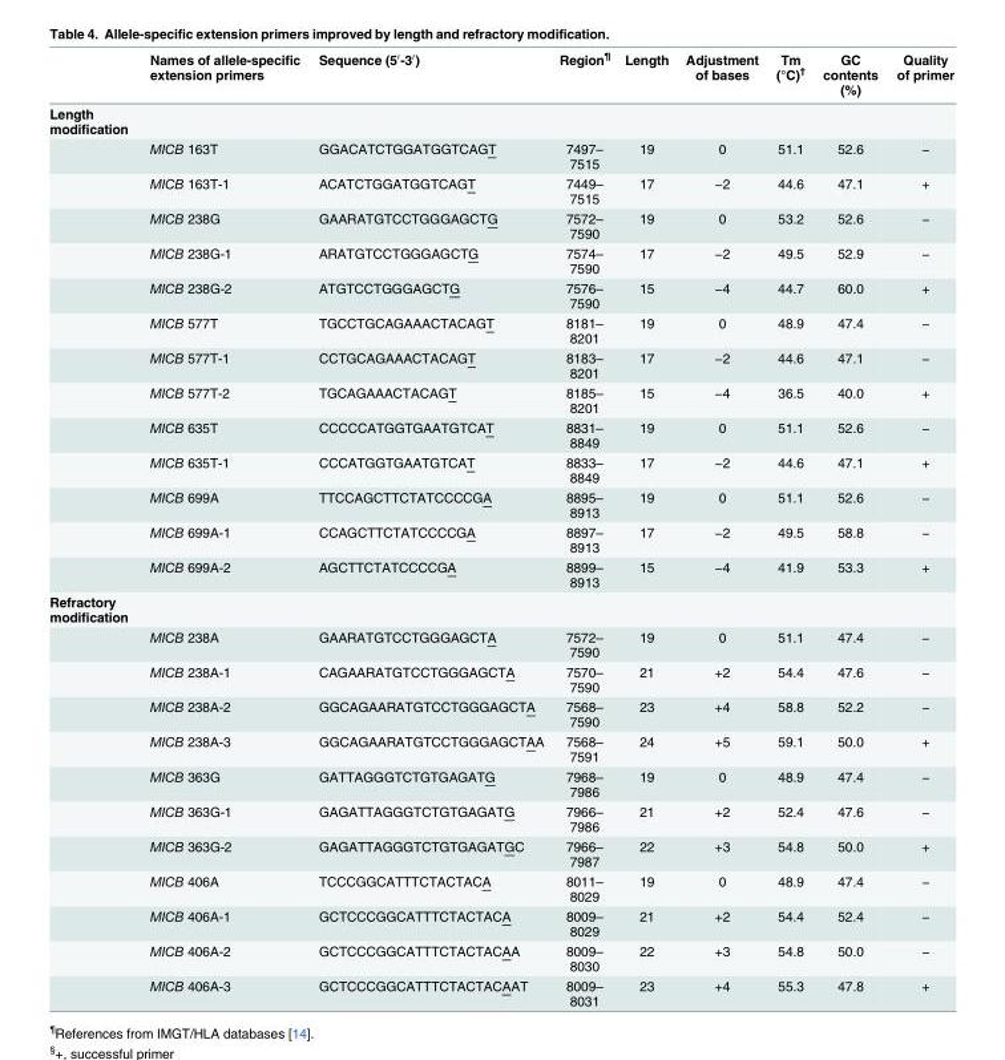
<table><thead><tr><td></td><td>Names of allele-specific extension primers</td><td>Sequence (5′-3′)</td><td>Region<sup>¶</sup></td><td>Length</td><td>Adjustment of bases</td><td>Tm (°C)<sup>†</sup></td><td>GC contents (%)</td><td>Quality of primer</td></tr></thead><tbody><tr><td colspan="9">Length modification</td></tr><tr><td></td><td>MICB 163T</td><td>GGACATCTGGATGGTCAGT</td><td>7497– 7515</td><td>19</td><td>0</td><td>51.1</td><td>52.6</td><td>−</td></tr><tr><td></td><td>MICB 163T-1</td><td>ACATCTGGATGGTCAGT</td><td>7449– 7515</td><td>17</td><td>−2</td><td>44.6</td><td>47.1</td><td>+</td></tr><tr><td></td><td>MICB 238G</td><td>GAARATGTCCTGGGAGCTG</td><td>7572– 7590</td><td>19</td><td>0</td><td>53.2</td><td>52.6</td><td>−</td></tr><tr><td></td><td>MICB 238G-1</td><td>ARATGTCCTGGGAGCTG</td><td>7574– 7590</td><td>17</td><td>−2</td><td>49.5</td><td>52.9</td><td>−</td></tr><tr><td></td><td>MICB 238G-2</td><td>ATGTCCTGGGAGCTG</td><td>7576– 7590</td><td>15</td><td>−4</td><td>44.7</td><td>60.0</td><td>+</td></tr><tr><td></td><td>MICB 577T</td><td>TGCCTGCAGAAACTACAGT</td><td>8181– 8201</td><td>19</td><td>0</td><td>48.9</td><td>47.4</td><td>−</td></tr><tr><td></td><td>MICB 577T-1</td><td>CCTGCAGAAACTACAGT</td><td>8183– 8201</td><td>17</td><td>−2</td><td>44.6</td><td>47.1</td><td>−</td></tr><tr><td></td><td>MICB 577T-2</td><td>TGCAGAAACTACAGT</td><td>8185– 8201</td><td>15</td><td>−4</td><td>36.5</td><td>40.0</td><td>+</td></tr><tr><td></td><td>MICB 635T</td><td>CCCCCATGGTGAATGTCAT</td><td>8831– 8849</td><td>19</td><td>0</td><td>51.1</td><td>52.6</td><td>−</td></tr><tr><td></td><td>MICB 635T-1</td><td>CCCATGGTGAATGTCAT</td><td>8833– 8849</td><td>17</td><td>−2</td><td>44.6</td><td>47.1</td><td>+</td></tr><tr><td></td><td>MICB 699A</td><td>TTCCAGCTTCTATCCCCGA</td><td>8895– 8913</td><td>19</td><td>0</td><td>51.1</td><td>52.6</td><td>−</td></tr><tr><td></td><td>MICB 699A-1</td><td>CCAGCTTCTATCCCCGA</td><td>8897– 8913</td><td>17</td><td>−2</td><td>49.5</td><td>58.8</td><td>−</td></tr><tr><td></td><td>MICB 699A-2</td><td>AGCTTCTATCCCCGA</td><td>8899– 8913</td><td>15</td><td>−4</td><td>41.9</td><td>53.3</td><td>+</td></tr><tr><td colspan="9">Refractory modification</td></tr><tr><td></td><td>MICB 238A</td><td>GAARATGTCCTGGGAGCTA</td><td>7572– 7590</td><td>19</td><td>0</td><td>51.1</td><td>47.4</td><td>−</td></tr><tr><td></td><td>MICB 238A-1</td><td>CAGAARATGTCCTGGGAGCTA</td><td>7570– 7590</td><td>21</td><td>+2</td><td>54.4</td><td>47.6</td><td>−</td></tr><tr><td></td><td>MICB 238A-2</td><td>GGCAGAARATGTCCTGGGAGCTA</td><td>7568– 7590</td><td>23</td><td>+4</td><td>58.8</td><td>52.2</td><td>−</td></tr><tr><td></td><td>MICB 238A-3</td><td>GGCAGAARATGTCCTGGGAGCTAA</td><td>7568– 7591</td><td>24</td><td>+5</td><td>59.1</td><td>50.0</td><td>+</td></tr><tr><td></td><td>MICB 363G</td><td>GATTAGGGTCTGTGAGATG</td><td>7968– 7986</td><td>19</td><td>0</td><td>48.9</td><td>47.4</td><td>−</td></tr><tr><td></td><td>MICB 363G-1</td><td>GAGATTAGGGTCTGTGAGATG</td><td>7966– 7986</td><td>21</td><td>+2</td><td>52.4</td><td>47.6</td><td>−</td></tr><tr><td></td><td>MICB 363G-2</td><td>GAGATTAGGGTCTGTGAGATGC</td><td>7966– 7987</td><td>22</td><td>+3</td><td>54.8</td><td>50.0</td><td>+</td></tr><tr><td></td><td>MICB 406A</td><td>TCCCGGCATTTCTACTACA</td><td>8011– 8029</td><td>19</td><td>0</td><td>48.9</td><td>47.4</td><td>−</td></tr><tr><td></td><td>MICB 406A-1</td><td>GCTCCCGGCATTTCTACTACA</td><td>8009– 8029</td><td>21</td><td>+2</td><td>54.4</td><td>52.4</td><td>−</td></tr><tr><td></td><td>MICB 406A-2</td><td>GCTCCCGGCATTTCTACTACAA</td><td>8009– 8030</td><td>22</td><td>+3</td><td>54.8</td><td>50.0</td><td>−</td></tr><tr><td></td><td>MICB 406A-3</td><td>GCTCCCGGCATTTCTACTACAAT</td><td>8009– 8031</td><td>23</td><td>+4</td><td>55.3</td><td>47.8</td><td>+</td></tr></tbody></table>